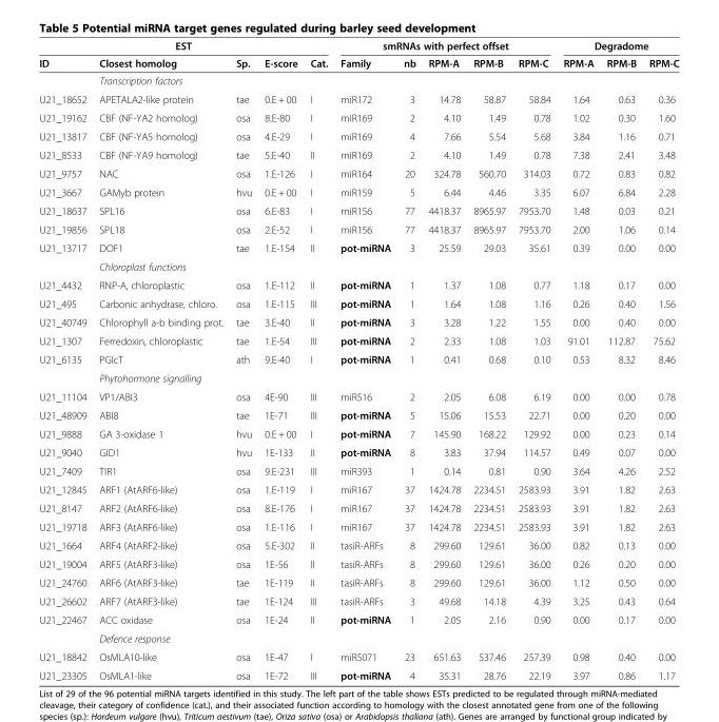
<table><thead><tr><td colspan="5">EST</td><td colspan="5">smRNAs with perfect offset</td><td colspan="3">Degradome</td></tr><tr><td>ID</td><td>Closest homolog</td><td>Sp.</td><td>E-score</td><td>Cat.</td><td>Family</td><td>nb</td><td>RPM-A</td><td>RPM-B</td><td>RPM-C</td><td>RPM-A</td><td>RPM-B</td><td>RPM-C</td></tr></thead><tbody><tr><td></td><td>Transcription factors</td><td></td><td></td><td></td><td></td><td></td><td></td><td></td><td></td><td></td><td></td><td></td></tr><tr><td>U21_18652</td><td>APETALA2-like protein</td><td>tae</td><td>0.E + 00</td><td>I</td><td>miR172</td><td>3</td><td>14.78</td><td>58.87</td><td>58.84</td><td>1.64</td><td>0.63</td><td>0.36</td></tr><tr><td>U21_19162</td><td>CBF (NF-YA2 homolog)</td><td>osa</td><td>8.E-80</td><td>I</td><td>miR169</td><td>2</td><td>4.10</td><td>1.49</td><td>0.78</td><td>1.02</td><td>0.30</td><td>1.60</td></tr><tr><td>U21_13817</td><td>CBF (NF-YA5 homolog)</td><td>osa</td><td>4.E-29</td><td>I</td><td>miR169</td><td>4</td><td>7.66</td><td>5.54</td><td>5.68</td><td>3.84</td><td>1.16</td><td>0.71</td></tr><tr><td>U21_8533</td><td>CBF (NF-YA9 homolog)</td><td>tae</td><td>5.E-40</td><td>II</td><td>miR169</td><td>2</td><td>4.10</td><td>1.49</td><td>0.78</td><td>7.38</td><td>2.41</td><td>3.48</td></tr><tr><td>U21_9757</td><td>NAC</td><td>osa</td><td>1.E-126</td><td>I</td><td>miR164</td><td>20</td><td>324.78</td><td>560.70</td><td>314.03</td><td>0.72</td><td>0.83</td><td>0.82</td></tr><tr><td>U21_3667</td><td>GAMyb protein</td><td>hvu</td><td>0.E + 00</td><td>I</td><td>miR159</td><td>5</td><td>6.44</td><td>4.46</td><td>3.35</td><td>6.07</td><td>6.84</td><td>2.28</td></tr><tr><td>U21_18637</td><td>SPL16</td><td>osa</td><td>6.E-83</td><td>I</td><td>miR156</td><td>77</td><td>4418.37</td><td>8965.97</td><td>7953.70</td><td>1.48</td><td>0.03</td><td>0.21</td></tr><tr><td>U21_19856</td><td>SPL18</td><td>osa</td><td>2.E-52</td><td>I</td><td>miR156</td><td>77</td><td>4418.37</td><td>8965.97</td><td>7953.70</td><td>2.00</td><td>1.06</td><td>0.14</td></tr><tr><td rowspan="2">U21_13717</td><td>DOF1</td><td>tae</td><td>1.E-154</td><td>II</td><td>pot-miRNA</td><td>3</td><td>25.59</td><td>29.03</td><td>35.61</td><td>0.39</td><td>0.00</td><td>0.00</td></tr><tr><td>Chloroplast functions</td><td></td><td></td><td></td><td></td><td></td><td></td><td></td><td></td><td></td><td></td><td></td></tr><tr><td>U21_4432</td><td>RNP-A, chloroplastic</td><td>osa</td><td>1.E-112</td><td>II</td><td>pot-miRNA</td><td>1</td><td>1.37</td><td>1.08</td><td>0.77</td><td>1.18</td><td>0.17</td><td>0.00</td></tr><tr><td>U21_495</td><td>Carbonic anhydrase, chloro.</td><td>osa</td><td>1.E-115</td><td>III</td><td>pot-miRNA</td><td>1</td><td>1.64</td><td>1.08</td><td>1.16</td><td>0.26</td><td>0.40</td><td>1.56</td></tr><tr><td>U21_40749</td><td>Chlorophyll a-b binding prot.</td><td>tae</td><td>3.E-40</td><td>II</td><td>pot-miRNA</td><td>3</td><td>3.28</td><td>1.22</td><td>1.55</td><td>0.00</td><td>0.40</td><td>0.00</td></tr><tr><td>U21_1307</td><td>Ferredoxin, chloroplastic</td><td>tae</td><td>1.E-54</td><td>III</td><td>pot-miRNA</td><td>2</td><td>2.33</td><td>1.08</td><td>1.03</td><td>91.01</td><td>112.87</td><td>75.62</td></tr><tr><td rowspan="2">U21_6135</td><td>PGlcT</td><td>ath</td><td>9.E-40</td><td>I</td><td>pot-miRNA</td><td>1</td><td>0.41</td><td>0.68</td><td>0.10</td><td>0.53</td><td>8.32</td><td>8.46</td></tr><tr><td>Phytohormone signalling</td><td></td><td></td><td></td><td></td><td></td><td></td><td></td><td></td><td></td><td></td><td></td></tr><tr><td>U21_11104</td><td>VP1/ABI3</td><td>osa</td><td>4E-90</td><td>III</td><td>miR516</td><td>2</td><td>2.05</td><td>6.08</td><td>6.19</td><td>0.00</td><td>0.00</td><td>0.78</td></tr><tr><td>U21_48909</td><td>ABI8</td><td>tae</td><td>1E-71</td><td>III</td><td>pot-miRNA</td><td>5</td><td>15.06</td><td>15.53</td><td>22.71</td><td>0.00</td><td>0.20</td><td>0.00</td></tr><tr><td>U21_9888</td><td>GA 3-oxidase 1</td><td>hvu</td><td>0.E + 00</td><td>I</td><td>pot-miRNA</td><td>7</td><td>145.90</td><td>168.22</td><td>129.92</td><td>0.00</td><td>0.23</td><td>0.14</td></tr><tr><td>U21_9040</td><td>GID1</td><td>hvu</td><td>1E-133</td><td>II</td><td>pot-miRNA</td><td>8</td><td>3.83</td><td>37.94</td><td>114.57</td><td>0.49</td><td>0.07</td><td>0.00</td></tr><tr><td>U21_7409</td><td>TIR1</td><td>osa</td><td>9.E-231</td><td>III</td><td>miR393</td><td>1</td><td>0.14</td><td>0.81</td><td>0.90</td><td>3.64</td><td>4.26</td><td>2.52</td></tr><tr><td>U21_12845</td><td>ARF1 (AtARF6-like)</td><td>osa</td><td>1.E-119</td><td>I</td><td>miR167</td><td>37</td><td>1424.78</td><td>2234.51</td><td>2583.93</td><td>3.91</td><td>1.82</td><td>2.63</td></tr><tr><td>U21_8147</td><td>ARF2 (AtARF6-like)</td><td>osa</td><td>8.E-176</td><td>I</td><td>miR167</td><td>37</td><td>1424.78</td><td>2234.51</td><td>2583.93</td><td>3.91</td><td>1.82</td><td>2.63</td></tr><tr><td>U21_19718</td><td>ARF3 (AtARF6-like)</td><td>osa</td><td>1.E-116</td><td>I</td><td>miR167</td><td>37</td><td>1424.78</td><td>2234.51</td><td>2583.93</td><td>3.91</td><td>1.82</td><td>2.63</td></tr><tr><td>U21_1664</td><td>ARF4 (AtARF2-like)</td><td>osa</td><td>5.E-302</td><td>II</td><td>tasiR-ARFs</td><td>8</td><td>299.60</td><td>129.61</td><td>36.00</td><td>0.82</td><td>0.13</td><td>0.00</td></tr><tr><td>U21_19004</td><td>ARF5 (AtARF3-like)</td><td>osa</td><td>1E-56</td><td>II</td><td>tasiR-ARFs</td><td>8</td><td>299.60</td><td>129.61</td><td>36.00</td><td>0.26</td><td>0.20</td><td>0.00</td></tr><tr><td>U21_24760</td><td>ARF6 (AtARF3-like)</td><td>tae</td><td>1E-119</td><td>II</td><td>tasiR-ARFs</td><td>8</td><td>299.60</td><td>129.61</td><td>36.00</td><td>1.12</td><td>0.50</td><td>0.00</td></tr><tr><td>U21_26602</td><td>ARF7 (AtARF3-like)</td><td>tae</td><td>1E-124</td><td>III</td><td>tasiR-ARFs</td><td>3</td><td>49.68</td><td>14.18</td><td>4.39</td><td>3.25</td><td>0.43</td><td>0.64</td></tr><tr><td rowspan="2">U21_22467</td><td>ACC oxidase</td><td>osa</td><td>1E-24</td><td>II</td><td>pot-miRNA</td><td>1</td><td>2.05</td><td>2.16</td><td>0.90</td><td>0.00</td><td>0.17</td><td>0.00</td></tr><tr><td>Defence response</td><td></td><td></td><td></td><td></td><td></td><td></td><td></td><td></td><td></td><td></td><td></td></tr><tr><td>U21_18842</td><td>OsMLA10-like</td><td>osa</td><td>1E-47</td><td>I</td><td>miR5071</td><td>23</td><td>651.63</td><td>537.46</td><td>257.39</td><td>0.98</td><td>0.40</td><td>0.00</td></tr><tr><td>U21_23305</td><td>OsMLA1-like</td><td>osa</td><td>1E-72</td><td>III</td><td>pot-miRNA</td><td>4</td><td>35.31</td><td>28.76</td><td>22.19</td><td>3.97</td><td>0.86</td><td>1.17</td></tr></tbody></table>